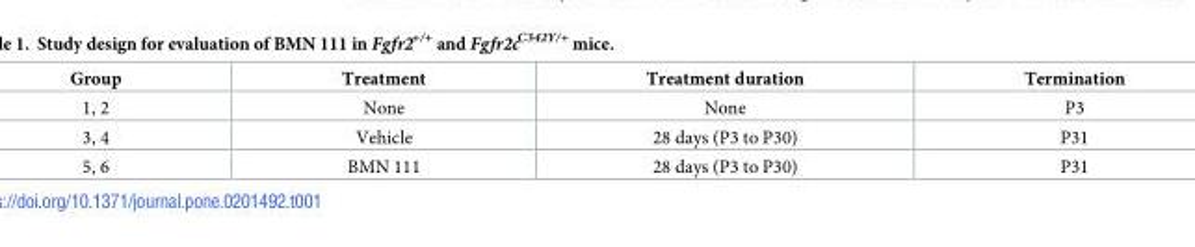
<table><thead><tr><td>Group</td><td>Treatment</td><td>Treatment duration</td><td>Termination</td></tr></thead><tbody><tr><td>1, 2</td><td>None</td><td>None</td><td>P3</td></tr><tr><td>3, 4</td><td>Vehicle</td><td>28 days (P3 to P30)</td><td>P31</td></tr><tr><td>5, 6</td><td>BMN 111</td><td>28 days (P3 to P30)</td><td>P31</td></tr></tbody></table>